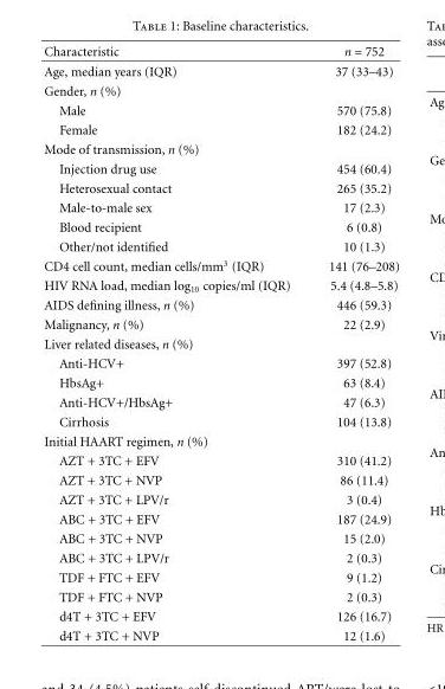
<table><thead><tr><td>Characteristic</td><td>n = 752</td></tr></thead><tbody><tr><td>Age, median years (IQR)</td><td>37 (33–43)</td></tr><tr><td colspan="2">Gender, n (%)</td></tr><tr><td>Male</td><td>570 (75.8)</td></tr><tr><td>Female</td><td>182 (24.2)</td></tr><tr><td colspan="2">Mode of transmission, n (%)</td></tr><tr><td>Injection drug use</td><td>454 (60.4)</td></tr><tr><td>Heterosexual contact</td><td>265 (35.2)</td></tr><tr><td>Male-to-male sex</td><td>17 (2.3)</td></tr><tr><td>Blood recipient</td><td>6 (0.8)</td></tr><tr><td>Other/not identified</td><td>10 (1.3)</td></tr><tr><td>CD4 cell count, median cells/mm<sup>3</sup> (IQR)</td><td>141 (76–208)</td></tr><tr><td>HIV RNA load, median log<sub>10</sub> copies/ml (IQR)</td><td>5.4 (4.8–5.8)</td></tr><tr><td>AIDS defining illness, n (%)</td><td>446 (59.3)</td></tr><tr><td>Malignancy, n (%)</td><td>22 (2.9)</td></tr><tr><td colspan="2">Liver related diseases, n (%)</td></tr><tr><td>Anti-HCV+</td><td>397 (52.8)</td></tr><tr><td>HbsAg+</td><td>63 (8.4)</td></tr><tr><td>Anti-HCV+/HbsAg+</td><td>47 (6.3)</td></tr><tr><td>Cirrhosis</td><td>104 (13.8)</td></tr><tr><td colspan="2">Initial HAART regimen, n (%)</td></tr><tr><td>AZT + 3TC + EFV</td><td>310 (41.2)</td></tr><tr><td>AZT + 3TC + NVP</td><td>86 (11.4)</td></tr><tr><td>AZT + 3TC + LPV/r</td><td>3 (0.4)</td></tr><tr><td>ABC + 3TC + EFV</td><td>187 (24.9)</td></tr><tr><td>ABC + 3TC + NVP</td><td>15 (2.0)</td></tr><tr><td>ABC + 3TC + LPV/r</td><td>2 (0.3)</td></tr><tr><td>TDF + FTC + EFV</td><td>9 (1.2)</td></tr><tr><td>TDF + FTC + NVP</td><td>2 (0.3)</td></tr><tr><td>d4T + 3TC + EFV</td><td>126 (16.7)</td></tr><tr><td>d4T + 3TC + NVP</td><td>12 (1.6)</td></tr></tbody></table>